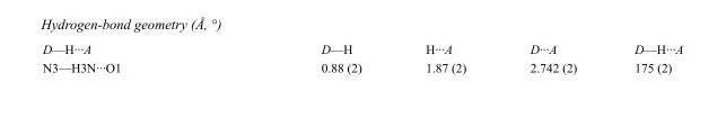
<table><tbody><tr><td>D—H···A</td><td>D—H</td><td>H···A</td><td>D···A</td><td>D—H···A</td></tr><tr><td>N3—H3N···O1</td><td>0.88 (2)</td><td>1.87 (2)</td><td>2.742 (2)</td><td>175 (2)</td></tr></tbody></table>